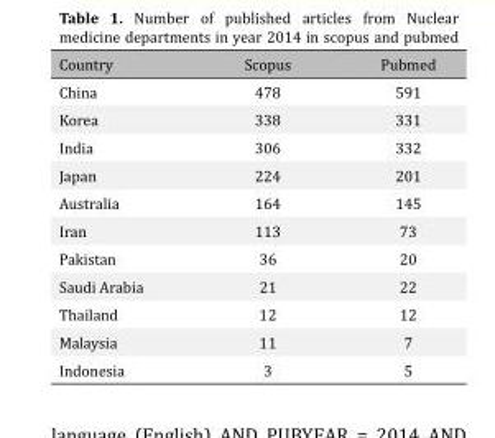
<table><thead><tr><td>Country</td><td>Scopus</td><td>Pubmed</td></tr></thead><tbody><tr><td>China</td><td>478</td><td>591</td></tr><tr><td>Korea</td><td>338</td><td>331</td></tr><tr><td>India</td><td>306</td><td>332</td></tr><tr><td>Japan</td><td>224</td><td>201</td></tr><tr><td>Australia</td><td>164</td><td>145</td></tr><tr><td>Iran</td><td>113</td><td>73</td></tr><tr><td>Pakistan</td><td>36</td><td>20</td></tr><tr><td>Saudi Arabia</td><td>21</td><td>22</td></tr><tr><td>Thailand</td><td>12</td><td>12</td></tr><tr><td>Malaysia</td><td>11</td><td>7</td></tr><tr><td>Indonesia</td><td>3</td><td>5</td></tr></tbody></table>